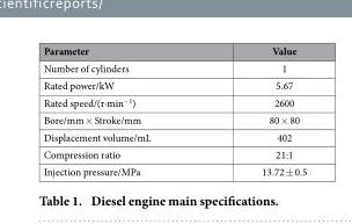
<table><thead><tr><td>Parameter</td><td>Value</td></tr></thead><tbody><tr><td>Number of cylinders</td><td>1</td></tr><tr><td>Rated power/kW</td><td>5.67</td></tr><tr><td>Rated speed/(r·min<sup>−1</sup>)</td><td>2600</td></tr><tr><td>Bore/mm × Stroke/mm</td><td>80 × 80</td></tr><tr><td>Displacement volume/mL</td><td>402</td></tr><tr><td>Compression ratio</td><td>21:1</td></tr><tr><td>Injection pressure/MPa</td><td>13.72 ± 0.5</td></tr></tbody></table>